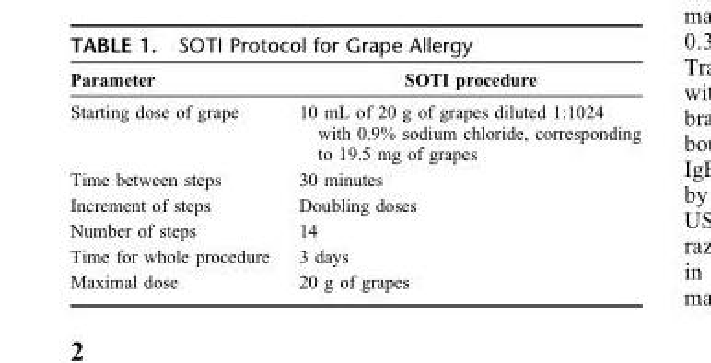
<table><thead><tr><td>Parameter</td><td>SOTI procedure</td></tr></thead><tbody><tr><td>Starting dose of grape</td><td>10 mL of 20 g of grapes diluted 1:1024 with 0.9% sodium chloride, corresponding to 19.5 mg of grapes</td></tr><tr><td>Time between steps</td><td>30 minutes</td></tr><tr><td>Increment of steps</td><td>Doubling doses</td></tr><tr><td>Number of steps</td><td>14</td></tr><tr><td>Time for whole procedure</td><td>3 days</td></tr><tr><td>Maximal dose</td><td>20 g of grapes</td></tr></tbody></table>